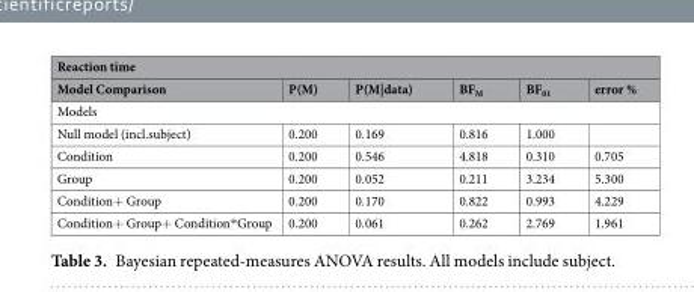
<table><thead><tr><td colspan="6">Reaction time</td></tr><tr><td>Model Comparison</td><td>P(M)</td><td>P(M|data)</td><td>BF<sub>M</sub></td><td>BF<sub>01</sub></td><td>error %</td></tr></thead><tbody><tr><td colspan="6">Models</td></tr><tr><td>Null model (incl.subject)</td><td>0.200</td><td>0.169</td><td>0.816</td><td>1.000</td><td></td></tr><tr><td>Condition</td><td>0.200</td><td>0.546</td><td>4.818</td><td>0.310</td><td>0.705</td></tr><tr><td>Group</td><td>0.200</td><td>0.052</td><td>0.211</td><td>3.234</td><td>5.300</td></tr><tr><td>Condition+ Group</td><td>0.200</td><td>0.170</td><td>0.822</td><td>0.993</td><td>4.229</td></tr><tr><td>Condition+ Group+ Condition*Group</td><td>0.200</td><td>0.061</td><td>0.262</td><td>2.769</td><td>1.961</td></tr></tbody></table>